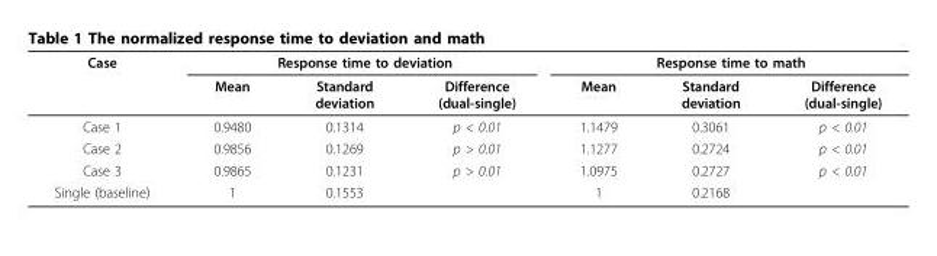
<table><thead><tr><td rowspan="2">Case</td><td colspan="3">Response time to deviation</td><td colspan="3">Response time to math</td></tr><tr><td>Mean</td><td>Standard deviation</td><td>Difference (dual-single)</td><td>Mean</td><td>Standard deviation</td><td>Difference (dual-single)</td></tr></thead><tbody><tr><td>Case 1</td><td>0.9480</td><td>0.1314</td><td>p &lt; 0.01</td><td>1.1479</td><td>0.3061</td><td>p &lt; 0.01</td></tr><tr><td>Case 2</td><td>0.9856</td><td>0.1269</td><td>p &gt; 0.01</td><td>1.1277</td><td>0.2724</td><td>p &lt; 0.01</td></tr><tr><td>Case 3</td><td>0.9865</td><td>0.1231</td><td>p &gt; 0.01</td><td>1.0975</td><td>0.2727</td><td>p &lt; 0.01</td></tr><tr><td>Single (baseline)</td><td>1</td><td>0.1553</td><td></td><td>1</td><td>0.2168</td><td></td></tr></tbody></table>